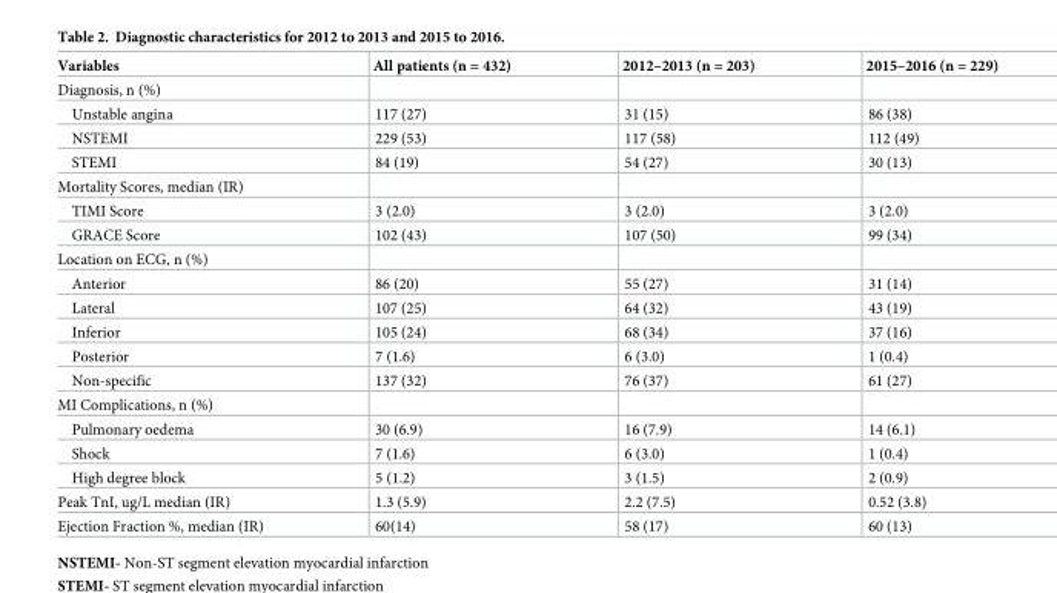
<table><thead><tr><td>Variables</td><td>All patients (n = 432)</td><td>2012–2013 (n = 203)</td><td>2015–2016 (n = 229)</td></tr></thead><tbody><tr><td colspan="4">Diagnosis, n (%)</td></tr><tr><td>Unstable angina</td><td>117 (27)</td><td>31 (15)</td><td>86 (38)</td></tr><tr><td>NSTEMI</td><td>229 (53)</td><td>117 (58)</td><td>112 (49)</td></tr><tr><td>STEMI</td><td>84 (19)</td><td>54 (27)</td><td>30 (13)</td></tr><tr><td colspan="4">Mortality Scores, median (IR)</td></tr><tr><td>TIMI Score</td><td>3 (2.0)</td><td>3 (2.0)</td><td>3 (2.0)</td></tr><tr><td>GRACE Score</td><td>102 (43)</td><td>107 (50)</td><td>99 (34)</td></tr><tr><td colspan="4">Location on ECG, n (%)</td></tr><tr><td>Anterior</td><td>86 (20)</td><td>55 (27)</td><td>31 (14)</td></tr><tr><td>Lateral</td><td>107 (25)</td><td>64 (32)</td><td>43 (19)</td></tr><tr><td>Inferior</td><td>105 (24)</td><td>68 (34)</td><td>37 (16)</td></tr><tr><td>Posterior</td><td>7 (1.6)</td><td>6 (3.0)</td><td>1 (0.4)</td></tr><tr><td>Non-specific</td><td>137 (32)</td><td>76 (37)</td><td>61 (27)</td></tr><tr><td colspan="4">MI Complications, n (%)</td></tr><tr><td>Pulmonary oedema</td><td>30 (6.9)</td><td>16 (7.9)</td><td>14 (6.1)</td></tr><tr><td>Shock</td><td>7 (1.6)</td><td>6 (3.0)</td><td>1 (0.4)</td></tr><tr><td>High degree block</td><td>5 (1.2)</td><td>3 (1.5)</td><td>2 (0.9)</td></tr><tr><td>Peak TnI, ug/L median (IR)</td><td>1.3 (5.9)</td><td>2.2 (7.5)</td><td>0.52 (3.8)</td></tr><tr><td>Ejection Fraction %, median (IR)</td><td>60(14)</td><td>58 (17)</td><td>60 (13)</td></tr></tbody></table>